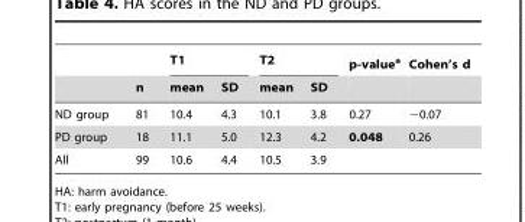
<table><thead><tr><td rowspan="2"></td><td rowspan="2">n</td><td colspan="2">T1</td><td colspan="2">T2</td><td rowspan="2">p-value<sup>a</sup></td><td rowspan="2">Cohen’s d</td></tr><tr><td>mean</td><td>SD</td><td>mean</td><td>SD</td></tr></thead><tbody><tr><td>ND group</td><td>81</td><td>10.4</td><td>4.3</td><td>10.1</td><td>3.8</td><td>0.27</td><td>−0.07</td></tr><tr><td>PD group</td><td>18</td><td>11.1</td><td>5.0</td><td>12.3</td><td>4.2</td><td>0.048</td><td>0.26</td></tr><tr><td>All</td><td>99</td><td>10.6</td><td>4.4</td><td>10.5</td><td>3.9</td><td></td><td></td></tr></tbody></table>